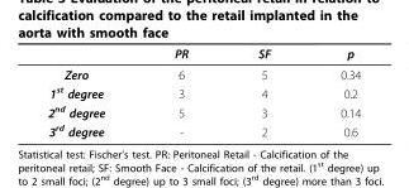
<table><thead><tr><td></td><td>PR</td><td>SF</td><td>p</td></tr></thead><tbody><tr><td>Zero</td><td>6</td><td>5</td><td>0.34</td></tr><tr><td>1<sup>st</sup> degree</td><td>3</td><td>4</td><td>0.2</td></tr><tr><td>2<sup>nd</sup> degree</td><td>5</td><td>3</td><td>0.14</td></tr><tr><td>3<sup>rd</sup> degree</td><td>-</td><td>2</td><td>0.6</td></tr></tbody></table>